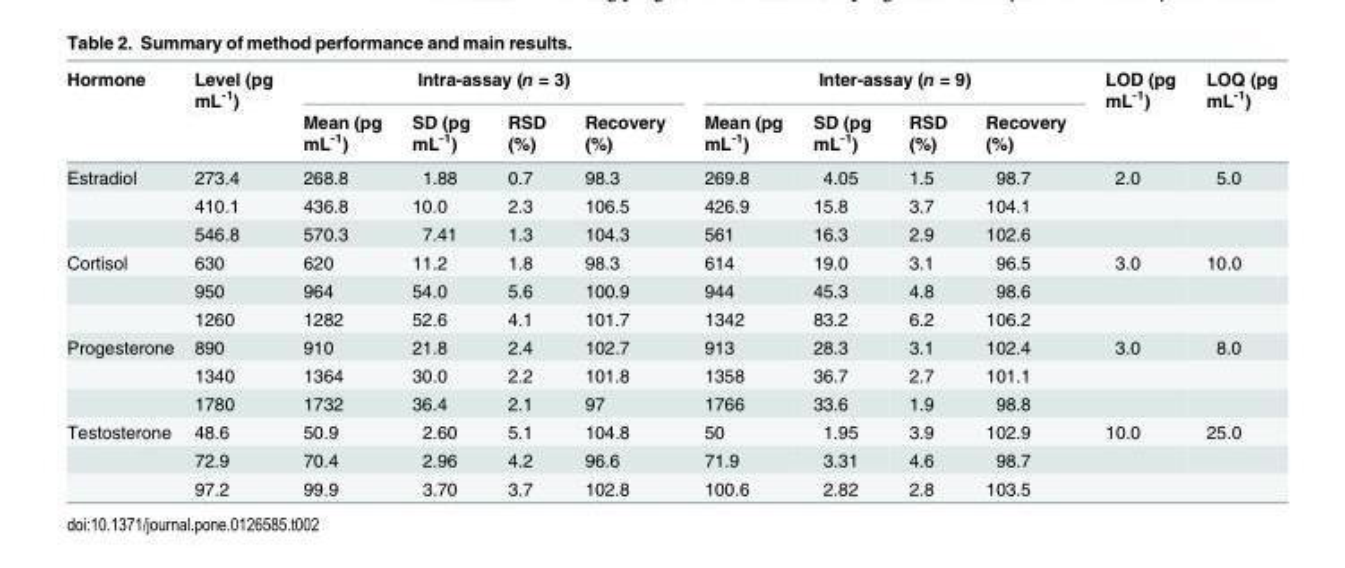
<table><thead><tr><td rowspan="2">Hormone</td><td rowspan="2">Level (pg mL<sup>-1</sup>)</td><td colspan="4">Intra-assay (n = 3)</td><td colspan="4">Inter-assay (n = 9)</td><td rowspan="2">LOD (pg mL<sup>-1</sup>)</td><td rowspan="2">LOQ (pg mL<sup>-1</sup>)</td></tr><tr><td>Mean (pg mL<sup>-1</sup>)</td><td>SD (pg mL<sup>-1</sup>)</td><td>RSD (%)</td><td>Recovery (%)</td><td>Mean (pg mL<sup>-1</sup>)</td><td>SD (pg mL<sup>-1</sup>)</td><td>RSD (%)</td><td>Recovery (%)</td></tr></thead><tbody><tr><td rowspan="3">Estradiol</td><td>273.4</td><td>268.8</td><td>1.88</td><td>0.7</td><td>98.3</td><td>269.8</td><td>4.05</td><td>1.5</td><td>98.7</td><td>2.0</td><td>5.0</td></tr><tr><td>410.1</td><td>436.8</td><td>10.0</td><td>2.3</td><td>106.5</td><td>426.9</td><td>15.8</td><td>3.7</td><td>104.1</td><td></td><td></td></tr><tr><td>546.8</td><td>570.3</td><td>7.41</td><td>1.3</td><td>104.3</td><td>561</td><td>16.3</td><td>2.9</td><td>102.6</td><td></td><td></td></tr><tr><td rowspan="3">Cortisol</td><td>630</td><td>620</td><td>11.2</td><td>1.8</td><td>98.3</td><td>614</td><td>19.0</td><td>3.1</td><td>96.5</td><td>3.0</td><td>10.0</td></tr><tr><td>950</td><td>964</td><td>54.0</td><td>5.6</td><td>100.9</td><td>944</td><td>45.3</td><td>4.8</td><td>98.6</td><td></td><td></td></tr><tr><td>1260</td><td>1282</td><td>52.6</td><td>4.1</td><td>101.7</td><td>1342</td><td>83.2</td><td>6.2</td><td>106.2</td><td></td><td></td></tr><tr><td rowspan="3">Progesterone</td><td>890</td><td>910</td><td>21.8</td><td>2.4</td><td>102.7</td><td>913</td><td>28.3</td><td>3.1</td><td>102.4</td><td>3.0</td><td>8.0</td></tr><tr><td>1340</td><td>1364</td><td>30.0</td><td>2.2</td><td>101.8</td><td>1358</td><td>36.7</td><td>2.7</td><td>101.1</td><td></td><td></td></tr><tr><td>1780</td><td>1732</td><td>36.4</td><td>2.1</td><td>97</td><td>1766</td><td>33.6</td><td>1.9</td><td>98.8</td><td></td><td></td></tr><tr><td rowspan="3">Testosterone</td><td>48.6</td><td>50.9</td><td>2.60</td><td>5.1</td><td>104.8</td><td>50</td><td>1.95</td><td>3.9</td><td>102.9</td><td>10.0</td><td>25.0</td></tr><tr><td>72.9</td><td>70.4</td><td>2.96</td><td>4.2</td><td>96.6</td><td>71.9</td><td>3.31</td><td>4.6</td><td>98.7</td><td></td><td></td></tr><tr><td>97.2</td><td>99.9</td><td>3.70</td><td>3.7</td><td>102.8</td><td>100.6</td><td>2.82</td><td>2.8</td><td>103.5</td><td></td><td></td></tr></tbody></table>